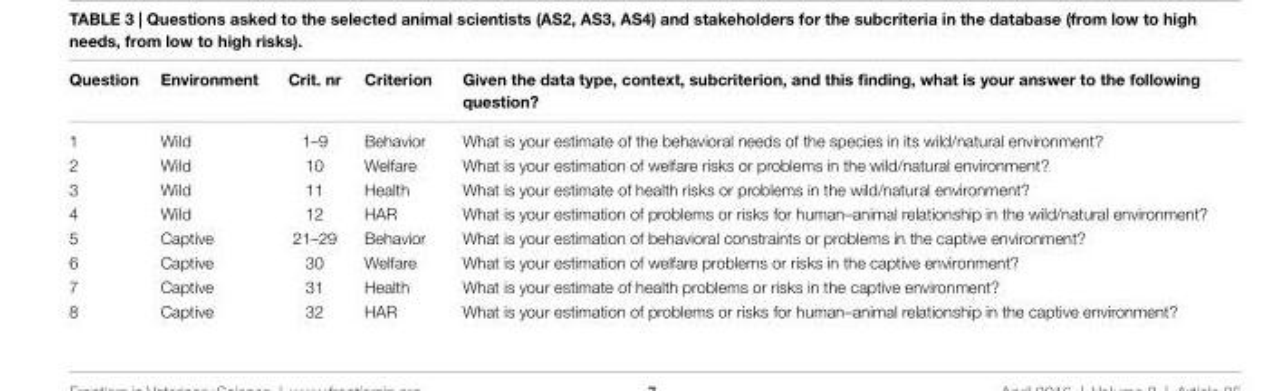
<table><thead><tr><td>Question</td><td>environment</td><td>crit. nr</td><td>criterion</td><td>given the data type, context, subcriterion, and this finding, what is your answer to the following question?</td></tr></thead><tbody><tr><td>1</td><td>Wild</td><td>1–9</td><td>Behavior</td><td>What is your estimate of the behavioral needs of the species in its wild/natural environment?</td></tr><tr><td>2</td><td>Wild</td><td>10</td><td>Welfare</td><td>What is your estimation of welfare risks or problems in the wild/natural environment?</td></tr><tr><td>3</td><td>Wild</td><td>11</td><td>Health</td><td>What is your estimate of health risks or problems in the wild/natural environment?</td></tr><tr><td>4</td><td>Wild</td><td>12</td><td>HAR</td><td>What is your estimation of problems or risks for human–animal relationship in the wild/natural environment?</td></tr><tr><td>5</td><td>Captive</td><td>21–29</td><td>Behavior</td><td>What is your estimation of behavioral constraints or problems in the captive environment?</td></tr><tr><td>6</td><td>Captive</td><td>30</td><td>Welfare</td><td>What is your estimation of welfare problems or risks in the captive environment?</td></tr><tr><td>7</td><td>Captive</td><td>31</td><td>Health</td><td>What is your estimate of health problems or risks in the captive environment?</td></tr><tr><td>8</td><td>Captive</td><td>32</td><td>HAR</td><td>What is your estimation of problems or risks for human–animal relationship in the captive environment?</td></tr></tbody></table>